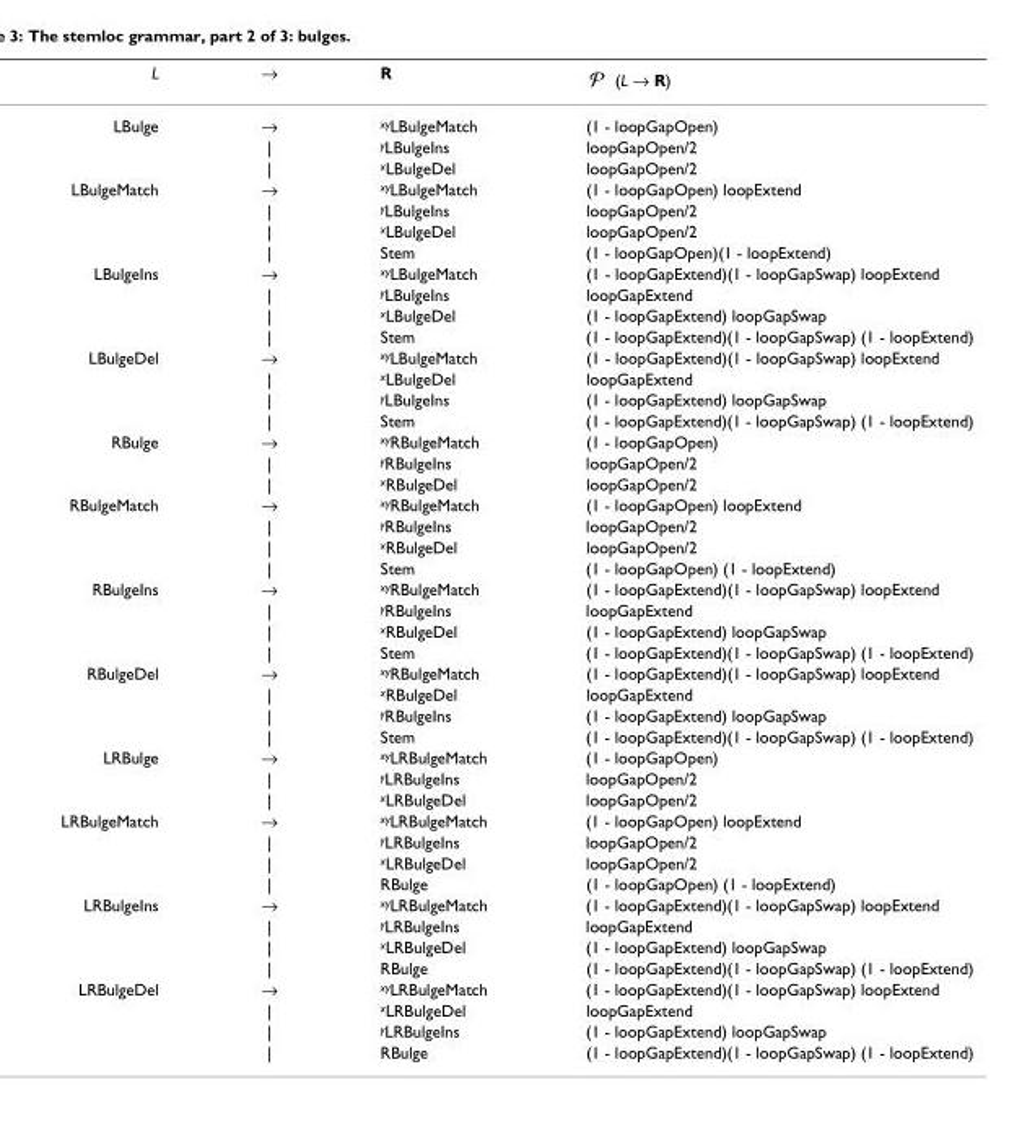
<table><thead><tr><td>L</td><td>→</td><td>R</td><td>(L → R) </td></tr></thead><tbody><tr><td rowspan="3">LBulge</td><td>→</td><td>xyLBulgeMatch</td><td>(1 - loopGapOpen)</td></tr><tr><td>|</td><td>yLBulgeIns</td><td>loopGapOpen/2</td></tr><tr><td>|</td><td>xLBulgeDel</td><td>loopGapOpen/2</td></tr><tr><td rowspan="4">LBulgeMatch</td><td>→</td><td>xyLBulgeMatch</td><td>(1 - loopGapOpen) loopExtend</td></tr><tr><td>|</td><td>yLBulgeIns</td><td>loopGapOpen/2</td></tr><tr><td>|</td><td>xLBulgeDel</td><td>loopGapOpen/2</td></tr><tr><td>|</td><td>Stem</td><td>(1 - loopGapOpen)(1 - loopExtend)</td></tr><tr><td rowspan="4">LBulgeIns</td><td>→</td><td>xyLBulgeMatch</td><td>(1 - loopGapExtend)(1 - loopGapSwap) loopExtend</td></tr><tr><td>|</td><td>yLBulgeIns</td><td>loopGapExtend</td></tr><tr><td>|</td><td>xLBulgeDel</td><td>(1 - loopGapExtend) loopGapSwap</td></tr><tr><td>|</td><td>Stem</td><td>(1 - loopGapExtend)(1 - loopGapSwap) (1 - loopExtend)</td></tr><tr><td rowspan="4">LBulgeDel</td><td>→</td><td>xyLBulgeMatch</td><td>(1 - loopGapExtend)(1 - loopGapSwap) loopExtend</td></tr><tr><td>|</td><td>xLBulgeDel</td><td>loopGapExtend</td></tr><tr><td>|</td><td>yLBulgeIns</td><td>(1 - loopGapExtend) loopGapSwap</td></tr><tr><td>|</td><td>Stem</td><td>(1 - loopGapExtend)(1 - loopGapSwap) (1 - loopExtend)</td></tr><tr><td rowspan="3">RBulge</td><td>→</td><td>xyRBulgeMatch</td><td>(1 - loopGapOpen)</td></tr><tr><td>|</td><td>yRBulgeIns</td><td>loopGapOpen/2</td></tr><tr><td>|</td><td>xRBulgeDel</td><td>loopGapOpen/2</td></tr><tr><td rowspan="4">RBulgeMatch</td><td>→</td><td>xyRBulgeMatch</td><td>(1 - loopGapOpen) loopExtend</td></tr><tr><td>|</td><td>yRBulgeIns</td><td>loopGapOpen/2</td></tr><tr><td>|</td><td>xRBulgeDel</td><td>loopGapOpen/2</td></tr><tr><td>|</td><td>Stem</td><td>(1 - loopGapOpen) (1 - loopExtend)</td></tr><tr><td rowspan="4">RBulgeIns</td><td>→</td><td>xyRBulgeMatch</td><td>(1 - loopGapExtend)(1 - loopGapSwap) loopExtend</td></tr><tr><td>|</td><td>yRBulgeIns</td><td>loopGapExtend</td></tr><tr><td>|</td><td>xRBulgeDel</td><td>(1 - loopGapExtend) loopGapSwap</td></tr><tr><td>|</td><td>Stem</td><td>(1 - loopGapExtend)(1 - loopGapSwap) (1 - loopExtend)</td></tr><tr><td rowspan="4">RBulgeDel</td><td>→</td><td>xyRBulgeMatch</td><td>(1 - loopGapExtend)(1 - loopGapSwap) loopExtend</td></tr><tr><td>|</td><td>xRBulgeDel</td><td>loopGapExtend</td></tr><tr><td>|</td><td>yRBulgeIns</td><td>(1 - loopGapExtend) loopGapSwap</td></tr><tr><td>|</td><td>Stem</td><td>(1 - loopGapExtend)(1 - loopGapSwap) (1 - loopExtend)</td></tr><tr><td rowspan="3">LRBulge</td><td>→</td><td>xyLRBulgeMatch</td><td>(1 - loopGapOpen)</td></tr><tr><td>|</td><td>yLRBulgeIns</td><td>loopGapOpen/2</td></tr><tr><td>|</td><td>xLRBulgeDel</td><td>loopGapOpen/2</td></tr><tr><td rowspan="4">LRBulgeMatch</td><td>→</td><td>xyLRBulgeMatch</td><td>(1 - loopGapOpen) loopExtend</td></tr><tr><td>|</td><td>yLRBulgeIns</td><td>loopGapOpen/2</td></tr><tr><td>|</td><td>xLRBulgeDel</td><td>loopGapOpen/2</td></tr><tr><td>|</td><td>RBulge</td><td>(1 - loopGapOpen) (1 - loopExtend)</td></tr><tr><td rowspan="4">LRBulgeIns</td><td>→</td><td>xyLRBulgeMatch</td><td>(1 - loopGapExtend)(1 - loopGapSwap) loopExtend</td></tr><tr><td>|</td><td>yLRBulgeIns</td><td>loopGapExtend</td></tr><tr><td>|</td><td>xLRBulgeDel</td><td>(1 - loopGapExtend) loopGapSwap</td></tr><tr><td>|</td><td>RBulge</td><td>(1 - loopGapExtend)(1 - loopGapSwap) (1 - loopExtend)</td></tr><tr><td rowspan="4">LRBulgeDel</td><td>→</td><td>xyLRBulgeMatch</td><td>(1 - loopGapExtend)(1 - loopGapSwap) loopExtend</td></tr><tr><td>|</td><td>xLRBulgeDel</td><td>loopGapExtend</td></tr><tr><td>|</td><td>yLRBulgeIns</td><td>(1 - loopGapExtend) loopGapSwap</td></tr><tr><td>|</td><td>RBulge</td><td>(1 - loopGapExtend)(1 - loopGapSwap) (1 - loopExtend)</td></tr></tbody></table>